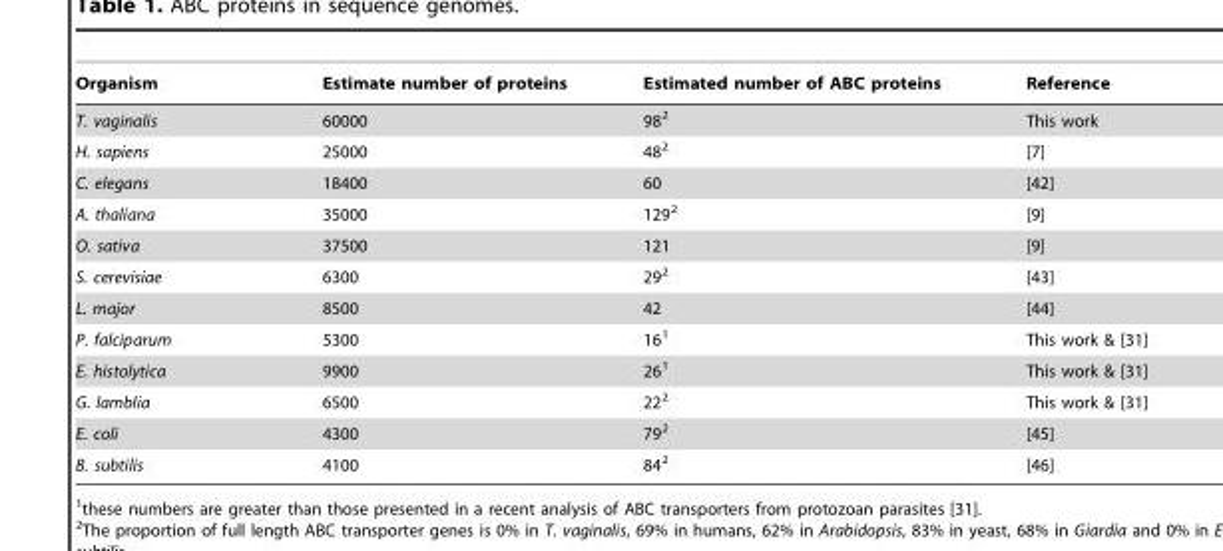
<table><thead><tr><td>Organism</td><td>Estimate number of proteins</td><td>Estimated number of ABC proteins</td><td>Reference</td></tr></thead><tbody><tr><td>T. vaginalis</td><td>60000</td><td>98<sup>2</sup></td><td>This work</td></tr><tr><td>H. sapiens</td><td>25000</td><td>48<sup>2</sup></td><td>[7]</td></tr><tr><td>C. elegans</td><td>18400</td><td>60</td><td>[42]</td></tr><tr><td>A. thaliana</td><td>35000</td><td>129<sup>2</sup></td><td>[9]</td></tr><tr><td>O. sativa</td><td>37500</td><td>121</td><td>[9]</td></tr><tr><td>S. cerevisiae</td><td>6300</td><td>29<sup>2</sup></td><td>[43]</td></tr><tr><td>L. major</td><td>8500</td><td>42</td><td>[44]</td></tr><tr><td>P. falciparum</td><td>5300</td><td>16<sup>1</sup></td><td>This work &amp; [31]</td></tr><tr><td>E. histolytica</td><td>9900</td><td>26<sup>1</sup></td><td>This work &amp; [31]</td></tr><tr><td>G. lamblia</td><td>6500</td><td>22<sup>2</sup></td><td>This work &amp; [31]</td></tr><tr><td>E. coli</td><td>4300</td><td>79<sup>2</sup></td><td>[45]</td></tr><tr><td>B. subtilis</td><td>4100</td><td>84<sup>2</sup></td><td>[46]</td></tr></tbody></table>